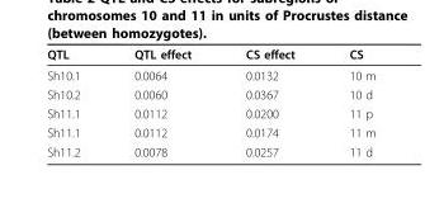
<table><thead><tr><td>QTL</td><td>QTL effect</td><td>CS effect</td><td>CS</td></tr></thead><tbody><tr><td>Sh10.1</td><td>0.0064</td><td>0.0132</td><td>10 m</td></tr><tr><td>Sh10.2</td><td>0.0060</td><td>0.0367</td><td>10 d</td></tr><tr><td>Sh11.1</td><td>0.0112</td><td>0.0200</td><td>11 p</td></tr><tr><td>Sh11.1</td><td>0.0112</td><td>0.0174</td><td>11 m</td></tr><tr><td>Sh11.2</td><td>0.0078</td><td>0.0257</td><td>11 d</td></tr></tbody></table>